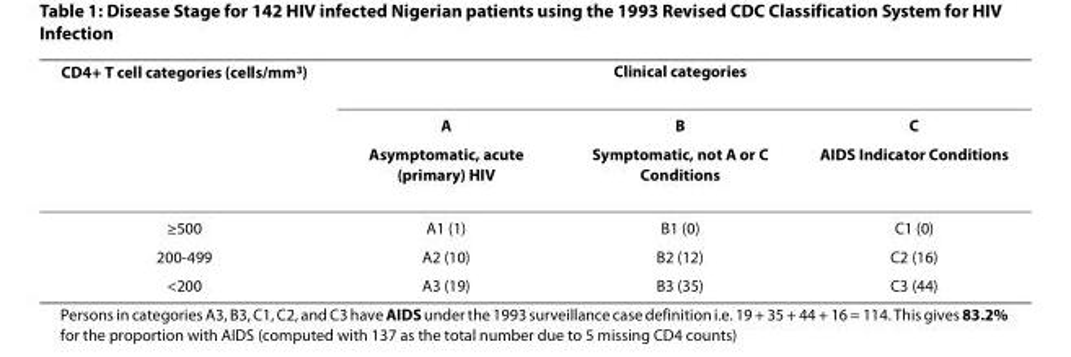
<table><thead><tr><td rowspan="3">CD4+ T cell categories (cells/mm<sup>3</sup>)</td><td colspan="3">Clinical categories</td></tr><tr><td rowspan="2">A Asymptomatic, acute (primary) HIV</td><td rowspan="2">B Symptomatic, not A or C Conditions</td><td rowspan="2">C AIDS Indicator Conditions</td></tr><tr></tr></thead><tbody><tr><td>≥500</td><td>A1 (1)</td><td>B1 (0)</td><td>C1 (0)</td></tr><tr><td>200-499</td><td>A2 (10)</td><td>B2 (12)</td><td>C2 (16)</td></tr><tr><td>&lt;200</td><td>A3 (19)</td><td>B3 (35)</td><td>C3 (44)</td></tr></tbody></table>